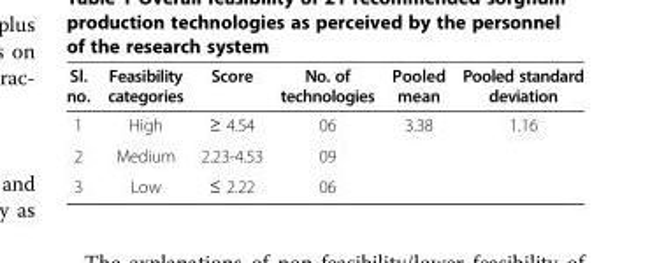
<table><thead><tr><td>Sl. no.</td><td>Feasibility categories</td><td>Score</td><td>No. of technologies</td><td>Pooled mean</td><td>Pooled standard deviation</td></tr></thead><tbody><tr><td>1</td><td>High</td><td>≥ 4.54</td><td>06</td><td rowspan="3">3.38</td><td rowspan="3">1.16</td></tr><tr><td>2</td><td>Medium</td><td>2.23-4.53</td><td>09</td></tr><tr><td>3</td><td>Low</td><td>≤ 2.22</td><td>06</td></tr></tbody></table>